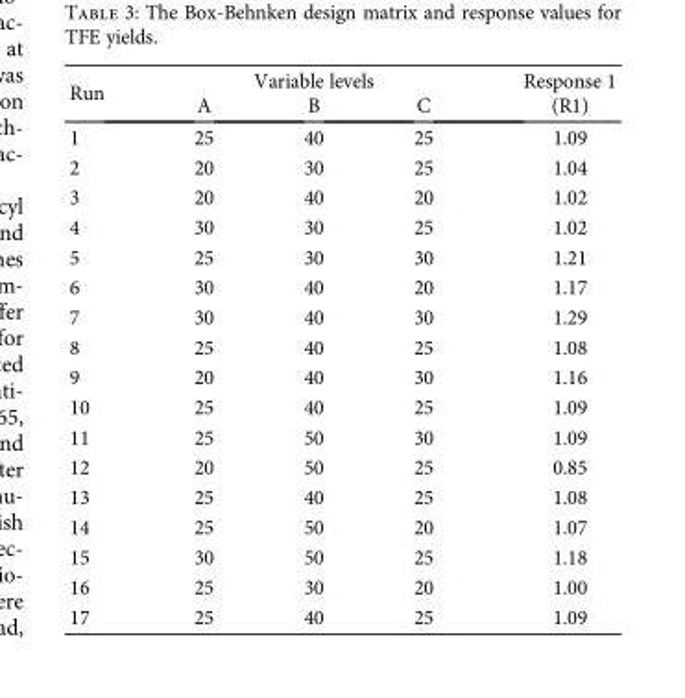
<table><thead><tr><td rowspan="2">Run</td><td colspan="3">Variable levels</td><td rowspan="2">Response 1 (R1)</td></tr><tr><td>A</td><td>B</td><td>C</td></tr></thead><tbody><tr><td>1</td><td>25</td><td>40</td><td>25</td><td>1.09</td></tr><tr><td>2</td><td>20</td><td>30</td><td>25</td><td>1.04</td></tr><tr><td>3</td><td>20</td><td>40</td><td>20</td><td>1.02</td></tr><tr><td>4</td><td>30</td><td>30</td><td>25</td><td>1.02</td></tr><tr><td>5</td><td>25</td><td>30</td><td>30</td><td>1.21</td></tr><tr><td>6</td><td>30</td><td>40</td><td>20</td><td>1.17</td></tr><tr><td>7</td><td>30</td><td>40</td><td>30</td><td>1.29</td></tr><tr><td>8</td><td>25</td><td>40</td><td>25</td><td>1.08</td></tr><tr><td>9</td><td>20</td><td>40</td><td>30</td><td>1.16</td></tr><tr><td>10</td><td>25</td><td>40</td><td>25</td><td>1.09</td></tr><tr><td>11</td><td>25</td><td>50</td><td>30</td><td>1.09</td></tr><tr><td>12</td><td>20</td><td>50</td><td>25</td><td>0.85</td></tr><tr><td>13</td><td>25</td><td>40</td><td>25</td><td>1.08</td></tr><tr><td>14</td><td>25</td><td>50</td><td>20</td><td>1.07</td></tr><tr><td>15</td><td>30</td><td>50</td><td>25</td><td>1.18</td></tr><tr><td>16</td><td>25</td><td>30</td><td>20</td><td>1.00</td></tr><tr><td>17</td><td>25</td><td>40</td><td>25</td><td>1.09</td></tr></tbody></table>